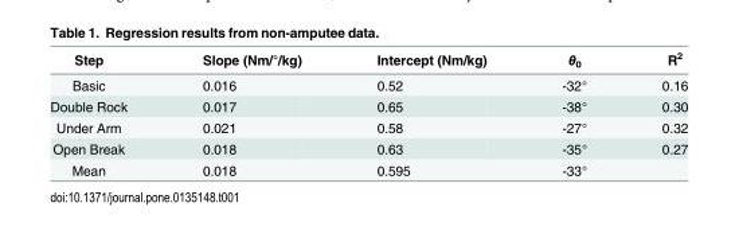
<table><thead><tr><td>Step</td><td>Slope (Nm/°/kg)</td><td>Intercept (Nm/kg)</td><td>θ<sub>0</sub></td><td>R<sup>2</sup></td></tr></thead><tbody><tr><td>Basic</td><td>0.016</td><td>0.52</td><td>-32°</td><td>0.16</td></tr><tr><td>Double Rock</td><td>0.017</td><td>0.65</td><td>-38°</td><td>0.30</td></tr><tr><td>Under Arm</td><td>0.021</td><td>0.58</td><td>-27°</td><td>0.32</td></tr><tr><td>Open Break</td><td>0.018</td><td>0.63</td><td>-35°</td><td>0.27</td></tr><tr><td>Mean</td><td>0.018</td><td>0.595</td><td>-33°</td><td></td></tr></tbody></table>